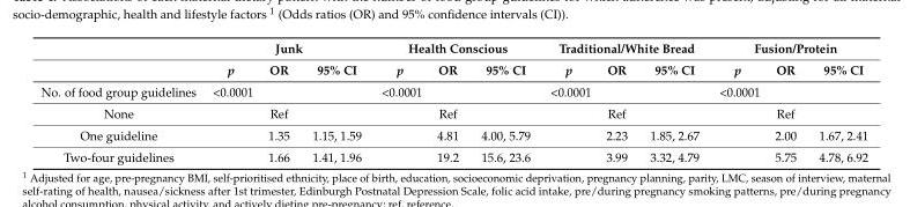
<table><thead><tr><td rowspan="2"></td><td colspan="3">Junk</td><td colspan="3">Health Conscious</td><td colspan="3">Traditional/White Bread</td><td colspan="3">Fusion/Protein</td></tr><tr><td>p</td><td>OR</td><td>95% CI</td><td>p</td><td>OR</td><td>95% CI</td><td>p</td><td>OR</td><td>95% CI</td><td>p</td><td>OR</td><td>95% CI</td></tr></thead><tbody><tr><td>No. of food group guidelines</td><td>&lt;0.0001</td><td></td><td></td><td>&lt;0.0001</td><td></td><td></td><td>&lt;0.0001</td><td></td><td></td><td>&lt;0.0001</td><td></td><td></td></tr><tr><td>None</td><td></td><td>Ref</td><td></td><td></td><td>Ref</td><td></td><td></td><td>Ref</td><td></td><td></td><td>Ref</td><td></td></tr><tr><td>One guideline</td><td></td><td>1.35</td><td>1.15, 1.59</td><td></td><td>4.81</td><td>4.00, 5.79</td><td></td><td>2.23</td><td>1.85, 2.67</td><td></td><td>2.00</td><td>1.67, 2.41</td></tr><tr><td>Two-four guidelines</td><td></td><td>1.66</td><td>1.41, 1.96</td><td></td><td>19.2</td><td>15.6, 23.6</td><td></td><td>3.99</td><td>3.32, 4.79</td><td></td><td>5.75</td><td>4.78, 6.92</td></tr></tbody></table>